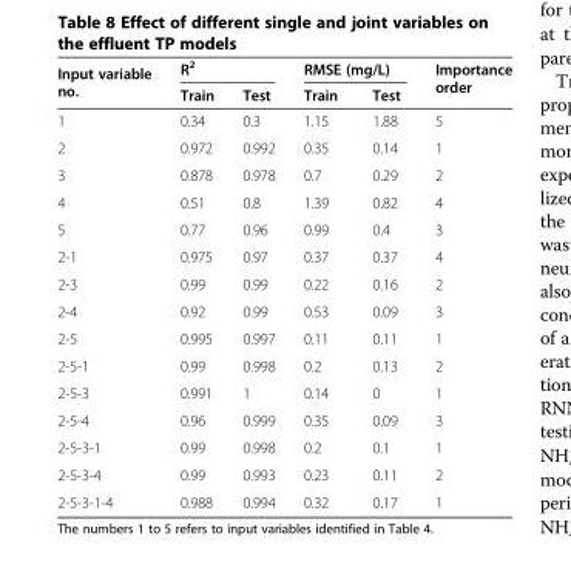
<table><thead><tr><td rowspan="2">Input variable no.</td><td colspan="2">R<sup>2</sup></td><td colspan="2">RMSE (mg/L)</td><td rowspan="2">Importance order</td></tr><tr><td>Train</td><td>Test</td><td>Train</td><td>Test</td></tr></thead><tbody><tr><td>1</td><td>0.34</td><td>0.3</td><td>1.15</td><td>1.88</td><td>5</td></tr><tr><td>2</td><td>0.972</td><td>0.992</td><td>0.35</td><td>0.14</td><td>1</td></tr><tr><td>3</td><td>0.878</td><td>0.978</td><td>0.7</td><td>0.29</td><td>2</td></tr><tr><td>4</td><td>0.51</td><td>0.8</td><td>1.39</td><td>0.82</td><td>4</td></tr><tr><td>5</td><td>0.77</td><td>0.96</td><td>0.99</td><td>0.4</td><td>3</td></tr><tr><td>2-1</td><td>0.975</td><td>0.97</td><td>0.37</td><td>0.37</td><td>4</td></tr><tr><td>2-3</td><td>0.99</td><td>0.99</td><td>0.22</td><td>0.16</td><td>2</td></tr><tr><td>2-4</td><td>0.92</td><td>0.99</td><td>0.53</td><td>0.09</td><td>3</td></tr><tr><td>2-5</td><td>0.995</td><td>0.997</td><td>0.11</td><td>0.11</td><td>1</td></tr><tr><td>2-5-1</td><td>0.99</td><td>0.998</td><td>0.2</td><td>0.13</td><td>2</td></tr><tr><td>2-5-3</td><td>0.991</td><td>1</td><td>0.14</td><td>0</td><td>1</td></tr><tr><td>2-5-4</td><td>0.96</td><td>0.999</td><td>0.35</td><td>0.09</td><td>3</td></tr><tr><td>2-5-3-1</td><td>0.99</td><td>0.998</td><td>0.2</td><td>0.1</td><td>1</td></tr><tr><td>2-5-3-4</td><td>0.99</td><td>0.993</td><td>0.23</td><td>0.11</td><td>2</td></tr><tr><td>2-5-3-1-4</td><td>0.988</td><td>0.994</td><td>0.32</td><td>0.17</td><td>1</td></tr></tbody></table>